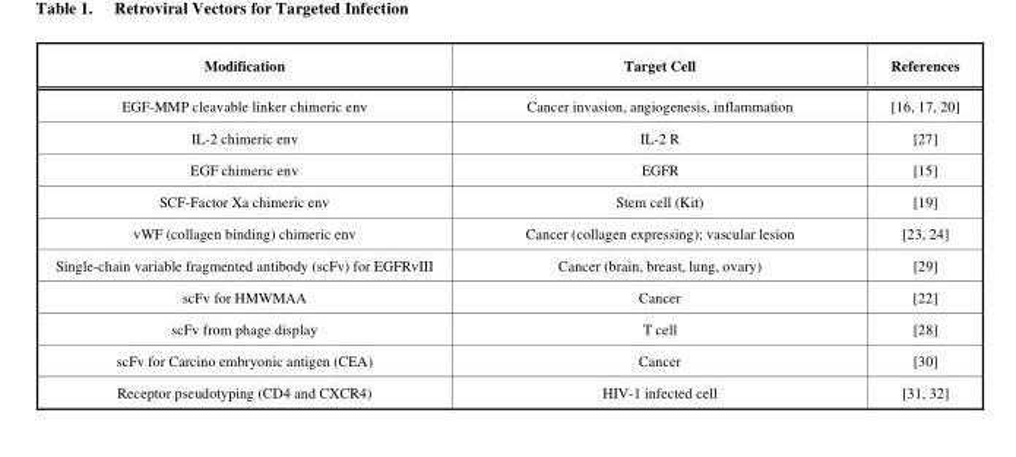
<table><thead><tr><td>Modification</td><td>Target Cell</td><td>References</td></tr></thead><tbody><tr><td>EGF-MMP cleavable linker chimeric env</td><td>Cancer invasion, angiogenesis, inflammation</td><td>[16, 17, 20]</td></tr><tr><td>IL-2 chimeric env</td><td>IL-2 R</td><td>[27]</td></tr><tr><td>EGF chimeric env</td><td>EGFR</td><td>[15]</td></tr><tr><td>SCF-Factor Xa chimeric env</td><td>Stem cell (Kit)</td><td>[19]</td></tr><tr><td>vWF (collagen binding) chimeric env</td><td>Cancer (collagen expressing); vascular lesion</td><td>[23, 24]</td></tr><tr><td>Single-chain variable fragmented antibody (scFv) for EGFRvIII</td><td>Cancer (brain, breast, lung, ovary)</td><td>[29]</td></tr><tr><td>scFv for HMWMAA</td><td>Cancer</td><td>[22]</td></tr><tr><td>scFv from phage display</td><td>T cell</td><td>[28]</td></tr><tr><td>scFv for Carcino embryonic antigen (CEA)</td><td>Cancer</td><td>[30]</td></tr><tr><td>Receptor pseudotyping (CD4 and CXCR4)</td><td>HIV-1 infected cell</td><td>[31, 32]</td></tr></tbody></table>